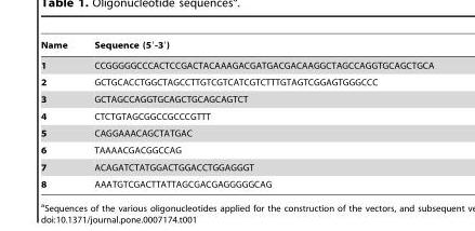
<table><thead><tr><td>Name</td><td>Sequence (5′-3′)</td></tr></thead><tbody><tr><td>1</td><td>CCGGGGGCCCACTCCGACTACAAAGACGATGACGACAAGGCTAGCCAGGTGCAGCTGCA</td></tr><tr><td>2</td><td>GCTGCACCTGGCTAGCCTTGTCGTCATCGTCTTTGTAGTCGGAGTGGGCCC</td></tr><tr><td>3</td><td>GCTAGCCAGGTGCAGCTGCAGCAGTCT</td></tr><tr><td>4</td><td>CTCTGTAGCGGCCGCCCGTTT</td></tr><tr><td>5</td><td>CAGGAAACAGCTATGAC</td></tr><tr><td>6</td><td>TAAAACGACGGCCAG</td></tr><tr><td>7</td><td>ACAGATCTATGGACTGGACCTGGAGGGT</td></tr><tr><td>8</td><td>AAATGTCGACTTATTAGCGACGAGGGGGCAG</td></tr></tbody></table>